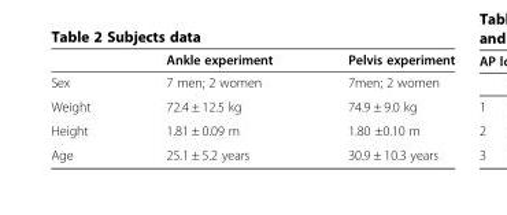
<table><thead><tr><td></td><td>Ankle experiment</td><td>Pelvis experiment</td></tr></thead><tbody><tr><td>Sex</td><td>7 men; 2 women</td><td>7men; 2 women</td></tr><tr><td>Weight</td><td>72.4 ± 12.5 kg</td><td>74.9 ± 9.0 kg</td></tr><tr><td>Height</td><td>1.81 ± 0.09 m</td><td>1.80 ±0.10 m</td></tr><tr><td>Age</td><td>25.1 ± 5.2 years</td><td>30.9 ± 10.3 years</td></tr></tbody></table>